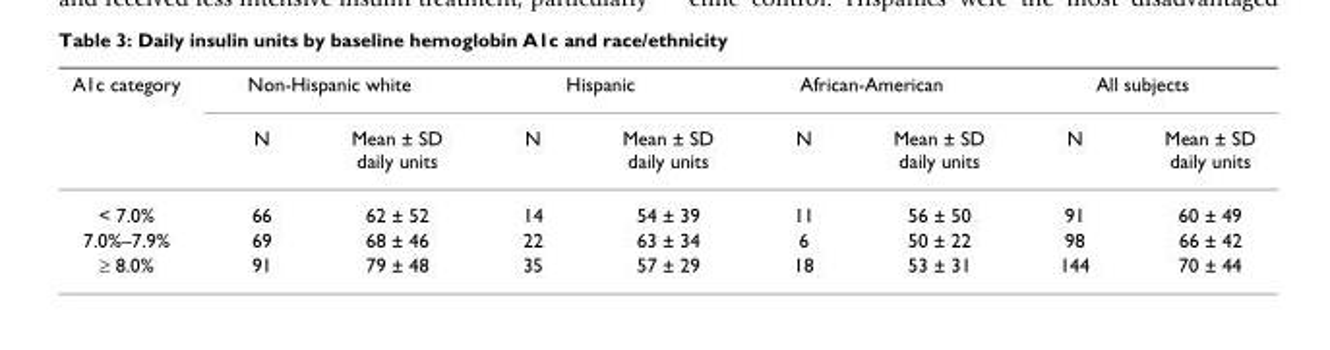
<table><thead><tr><td rowspan="2">A1c category</td><td colspan="2">Non-Hispanic white</td><td colspan="2">Hispanic</td><td colspan="2">African-American</td><td colspan="2">All subjects</td></tr><tr><td>N</td><td>Mean ± SD daily units</td><td>N</td><td>Mean ± SD daily units</td><td>N</td><td>Mean ± SD daily units</td><td>N</td><td>Mean ± SD daily units</td></tr></thead><tbody><tr><td>&lt; 7.0%</td><td>66</td><td>62 ± 52</td><td>14</td><td>54 ± 39</td><td>11</td><td>56 ± 50</td><td>91</td><td>60 ± 49</td></tr><tr><td>7.0%–7.9%</td><td>69</td><td>68 ± 46</td><td>22</td><td>63 ± 34</td><td>6</td><td>50 ± 22</td><td>98</td><td>66 ± 42</td></tr><tr><td>≥ 8.0%</td><td>91</td><td>79 ± 48</td><td>35</td><td>57 ± 29</td><td>18</td><td>53 ± 31</td><td>144</td><td>70 ± 44</td></tr></tbody></table>